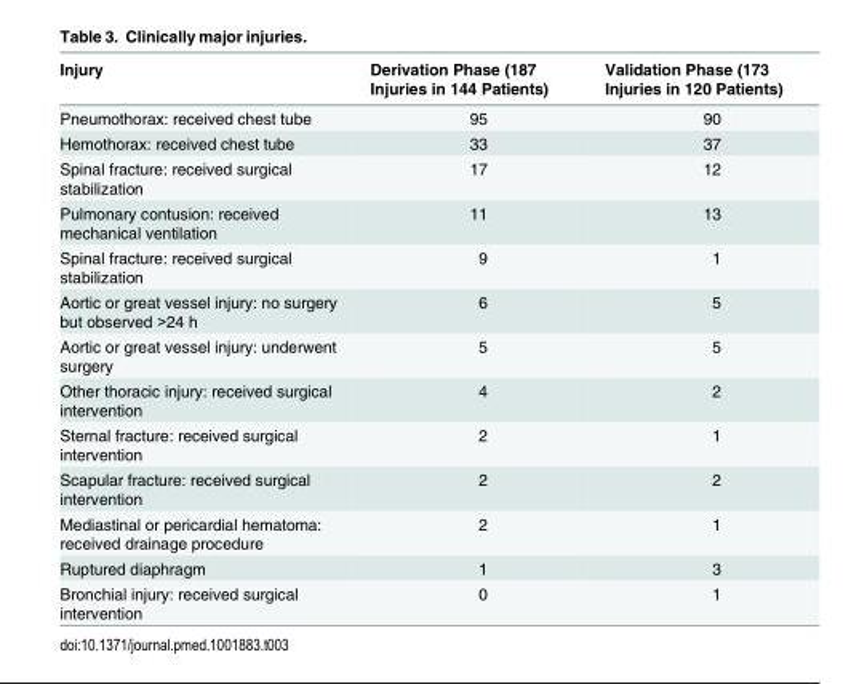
<table><thead><tr><td>Injury</td><td>Derivation Phase (187 Injuries in 144 Patients)</td><td>Validation Phase (173 Injuries in 120 Patients)</td></tr></thead><tbody><tr><td>Pneumothorax: received chest tube</td><td>95</td><td>90</td></tr><tr><td>Hemothorax: received chest tube</td><td>33</td><td>37</td></tr><tr><td>Spinal fracture: received surgical stabilization</td><td>17</td><td>12</td></tr><tr><td>Pulmonary contusion: received mechanical ventilation</td><td>11</td><td>13</td></tr><tr><td>Spinal fracture: received surgical stabilization</td><td>9</td><td>1</td></tr><tr><td>Aortic or great vessel injury: no surgery but observed &gt;24 h</td><td>6</td><td>5</td></tr><tr><td>Aortic or great vessel injury: underwent surgery</td><td>5</td><td>5</td></tr><tr><td>Other thoracic injury: received surgical intervention</td><td>4</td><td>2</td></tr><tr><td>Sternal fracture: received surgical intervention</td><td>2</td><td>1</td></tr><tr><td>Scapular fracture: received surgical intervention</td><td>2</td><td>2</td></tr><tr><td>Mediastinal or pericardial hematoma: received drainage procedure</td><td>2</td><td>1</td></tr><tr><td>Ruptured diaphragm</td><td>1</td><td>3</td></tr><tr><td>Bronchial injury: received surgical intervention</td><td>0</td><td>1</td></tr></tbody></table>